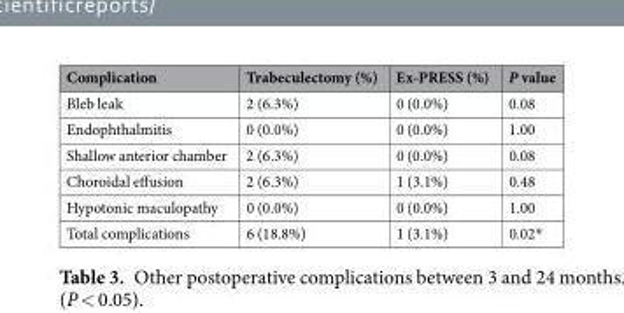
<table><thead><tr><td>Complication</td><td>Trabeculectomy (%)</td><td>Ex-PRESS (%)</td><td>P value</td></tr></thead><tbody><tr><td>Bleb leak</td><td>2 (6.3%)</td><td>0 (0.0%)</td><td>0.08</td></tr><tr><td>Endophthalmitis</td><td>0 (0.0%)</td><td>0 (0.0%)</td><td>1.00</td></tr><tr><td>Shallow anterior chamber</td><td>2 (6.3%)</td><td>0 (0.0%)</td><td>0.08</td></tr><tr><td>Choroidal effusion</td><td>2 (6.3%)</td><td>1 (3.1%)</td><td>0.48</td></tr><tr><td>Hypotonic maculopathy</td><td>0 (0.0%)</td><td>0 (0.0%)</td><td>1.00</td></tr><tr><td>Total complications</td><td>6 (18.8%)</td><td>1 (3.1%)</td><td>0.02*</td></tr></tbody></table>